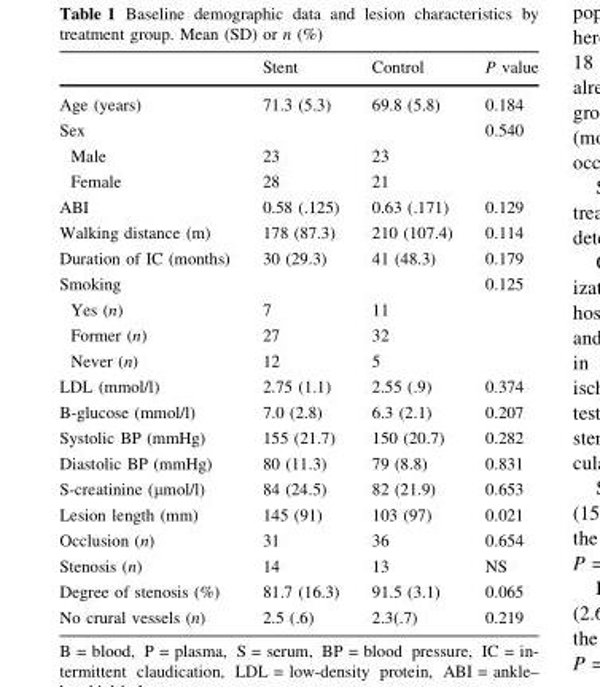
<table><thead><tr><td></td><td>Stent</td><td>Control</td><td>P value</td></tr></thead><tbody><tr><td>Age (years)</td><td>71.3 (5.3)</td><td>69.8 (5.8)</td><td>0.184</td></tr><tr><td colspan="3">Sex</td><td rowspan="3">0.540</td></tr><tr><td>Male</td><td>23</td><td>23</td></tr><tr><td>Female</td><td>28</td><td>21</td></tr><tr><td>ABI</td><td>0.58 (.125)</td><td>0.63 (.171)</td><td>0.129</td></tr><tr><td>Walking distance (m)</td><td>178 (87.3)</td><td>210 (107.4)</td><td>0.114</td></tr><tr><td>Duration of IC (months)</td><td>30 (29.3)</td><td>41 (48.3)</td><td>0.179</td></tr><tr><td colspan="3">Smoking</td><td rowspan="4">0.125</td></tr><tr><td>Yes (n)</td><td>7</td><td>11</td></tr><tr><td>Former (n)</td><td>27</td><td>32</td></tr><tr><td>Never (n)</td><td>12</td><td>5</td></tr><tr><td>LDL (mmol/l)</td><td>2.75 (1.1)</td><td>2.55 (.9)</td><td>0.374</td></tr><tr><td>B-glucose (mmol/l)</td><td>7.0 (2.8)</td><td>6.3 (2.1)</td><td>0.207</td></tr><tr><td>Systolic BP (mmHg)</td><td>155 (21.7)</td><td>150 (20.7)</td><td>0.282</td></tr><tr><td>Diastolic BP (mmHg)</td><td>80 (11.3)</td><td>79 (8.8)</td><td>0.831</td></tr><tr><td>S-creatinine (µmol/l)</td><td>84 (24.5)</td><td>82 (21.9)</td><td>0.653</td></tr><tr><td>Lesion length (mm)</td><td>145 (91)</td><td>103 (97)</td><td>0.021</td></tr><tr><td>Occlusion (n)</td><td>31</td><td>36</td><td>0.654</td></tr><tr><td>Stenosis (n)</td><td>14</td><td>13</td><td>NS</td></tr><tr><td>Degree of stenosis (%)</td><td>81.7 (16.3)</td><td>91.5 (3.1)</td><td>0.065</td></tr><tr><td>No crural vessels (n)</td><td>2.5 (.6)</td><td>2.3(.7)</td><td>0.219</td></tr></tbody></table>